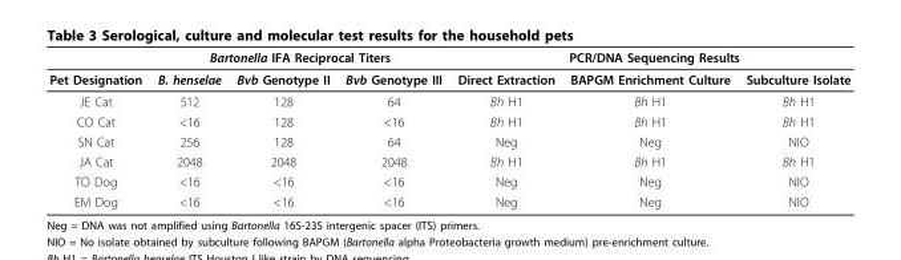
<table><thead><tr><td rowspan="2">Pet Designation</td><td colspan="3">Bartonella IFA Reciprocal Titers</td><td colspan="3">PCR/DNA Sequencing Results</td></tr><tr><td>B. henselae</td><td>Bvb Genotype II</td><td>Bvb Genotype III</td><td>Direct Extraction</td><td>BAPGM Enrichment Culture</td><td>Subculture Isolate</td></tr></thead><tbody><tr><td>JE Cat</td><td>512</td><td>128</td><td>64</td><td>Bh H1</td><td>Bh H1</td><td>Bh H1</td></tr><tr><td>CO Cat</td><td>&lt;16</td><td>128</td><td>&lt;16</td><td>Bh H1</td><td>Bh H1</td><td>Bh H1</td></tr><tr><td>SN Cat</td><td>256</td><td>128</td><td>64</td><td>Neg</td><td>Neg</td><td>NIO</td></tr><tr><td>JA Cat</td><td>2048</td><td>2048</td><td>2048</td><td>Bh H1</td><td>Bh H1</td><td>Bh H1</td></tr><tr><td>TO Dog</td><td>&lt;16</td><td>&lt;16</td><td>&lt;16</td><td>Neg</td><td>Neg</td><td>NIO</td></tr><tr><td>EM Dog</td><td>&lt;16</td><td>&lt;16</td><td>&lt;16</td><td>Neg</td><td>Neg</td><td>NIO</td></tr></tbody></table>